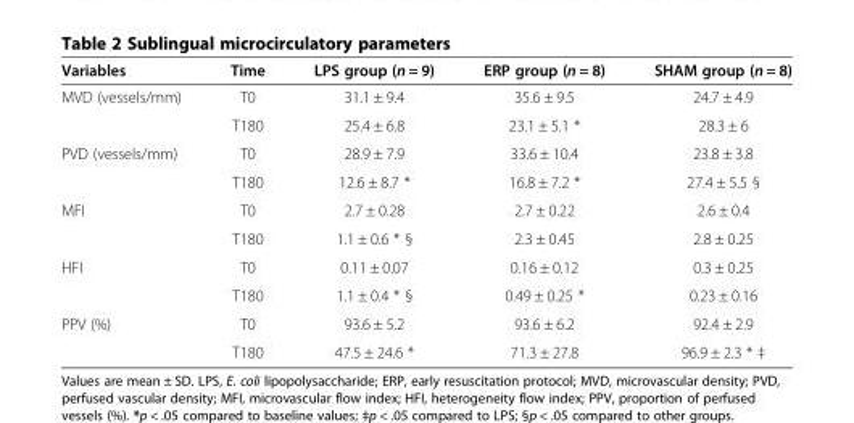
<table><thead><tr><td>Variables</td><td>Time</td><td>LPS group (n = 9)</td><td>ERP group (n = 8)</td><td>SHAM group (n = 8)</td></tr></thead><tbody><tr><td rowspan="2">MVD (vessels/mm)</td><td>T0</td><td>31.1 ± 9.4</td><td>35.6 ± 9.5</td><td>24.7 ± 4.9</td></tr><tr><td>T180</td><td>25.4 ± 6.8</td><td>23.1 ± 5.1 *</td><td>28.3 ± 6</td></tr><tr><td rowspan="2">PVD (vessels/mm)</td><td>T0</td><td>28.9 ± 7.9</td><td>33.6 ± 10.4</td><td>23.8 ± 3.8</td></tr><tr><td>T180</td><td>12.6 ± 8.7 *</td><td>16.8 ± 7.2 *</td><td>27.4 ± 5.5 §</td></tr><tr><td rowspan="2">MFI</td><td>T0</td><td>2.7 ± 0.28</td><td>2.7 ± 0.22</td><td>2.6 ± 0.4</td></tr><tr><td>T180</td><td>1.1 ± 0.6 * §</td><td>2.3 ± 0.45</td><td>2.8 ± 0.25</td></tr><tr><td rowspan="2">HFI</td><td>T0</td><td>0.11 ± 0.07</td><td>0.16 ± 0.12</td><td>0.3 ± 0.25</td></tr><tr><td>T180</td><td>1.1 ± 0.4 * §</td><td>0.49 ± 0.25 *</td><td>0.23 ± 0.16</td></tr><tr><td rowspan="2">PPV (%)</td><td>T0</td><td>93.6 ± 5.2</td><td>93.6 ± 6.2</td><td>92.4 ± 2.9</td></tr><tr><td>T180</td><td>47.5 ± 24.6 *</td><td>71.3 ± 27.8</td><td>96.9 ± 2.3 * ‡</td></tr></tbody></table>